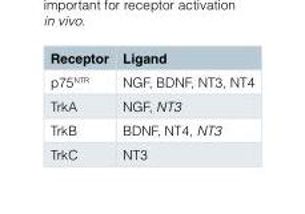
<table><thead><tr><td>Receptor</td><td>Ligand</td></tr></thead><tbody><tr><td>p75<sup>NTR</sup></td><td>NGF, BDNF, NT3, NT4</td></tr><tr><td>TrkA</td><td>NGF, NT3</td></tr><tr><td>TrkB</td><td>BDNF, NT4, NT3</td></tr><tr><td>TrkC</td><td>NT3</td></tr></tbody></table>